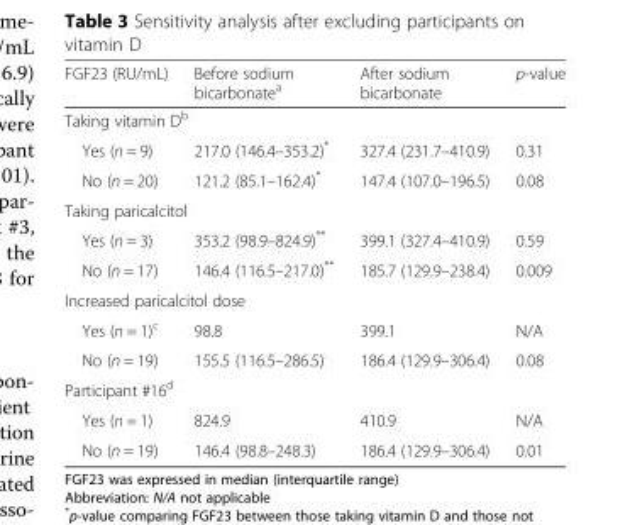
<table><thead><tr><td>FGF23 (RU/mL)</td><td>Before sodium bicarbonate<sup>a</sup></td><td>After sodium bicarbonate</td><td>p-value</td></tr></thead><tbody><tr><td colspan="4">Taking vitamin D<sup>b</sup></td></tr><tr><td>Yes (n = 9)</td><td>217.0 (146.4–353.2)*</td><td>327.4 (231.7–410.9)</td><td>0.31</td></tr><tr><td>No (n = 20)</td><td>121.2 (85.1–162.4)*</td><td>147.4 (107.0–196.5)</td><td>0.08</td></tr><tr><td colspan="4">Taking paricalcitol</td></tr><tr><td>Yes (n = 3)</td><td>353.2 (98.9–824.9)**</td><td>399.1 (327.4–410.9)</td><td>0.59</td></tr><tr><td>No (n = 17)</td><td>146.4 (116.5–217.0)**</td><td>185.7 (129.9–238.4)</td><td>0.009</td></tr><tr><td colspan="4">Increased paricalcitol dose</td></tr><tr><td>Yes (n = 1)<sup>c</sup></td><td>98.8</td><td>399.1</td><td>N/A</td></tr><tr><td>No (n = 19)</td><td>155.5 (116.5–286.5)</td><td>186.4 (129.9–306.4)</td><td>0.08</td></tr><tr><td colspan="4">Participant #16<sup>d</sup></td></tr><tr><td>Yes (n = 1)</td><td>824.9</td><td>410.9</td><td>N/A</td></tr><tr><td>No (n = 19)</td><td>146.4 (98.8–248.3)</td><td>186.4 (129.9–306.4)</td><td>0.01</td></tr></tbody></table>